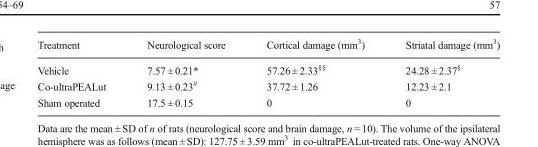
<table><thead><tr><td>Treatment</td><td>Neurological score</td><td>Cortical damage (mm<sup>3</sup>)</td><td>Striatal damage (mm<sup>3</sup>)</td></tr></thead><tbody><tr><td>Vehicle</td><td>7.57 ± 0.21*</td><td>57.26 ± 2.33<sup>§§</sup></td><td>24.28 ± 2.37<sup>§</sup></td></tr><tr><td>Co-ultraPEALut</td><td>9.13 ± 0.23<sup>#</sup></td><td>37.72 ± 1.26</td><td>12.23 ± 2.1</td></tr><tr><td>Sham operated</td><td>17.5 ± 0.15</td><td>0</td><td>0</td></tr></tbody></table>